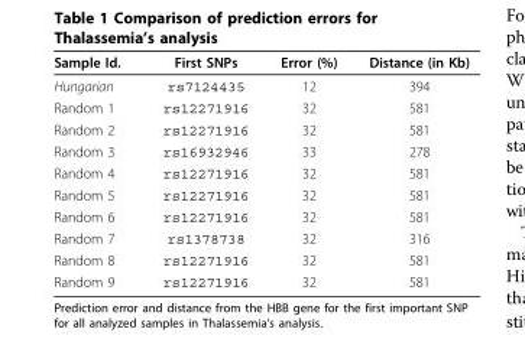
<table><thead><tr><td>Sample Id.</td><td>First SNPs</td><td>Error (%)</td><td>Distance (in Kb)</td></tr></thead><tbody><tr><td>Hungarian</td><td>rs7124435</td><td>12</td><td>394</td></tr><tr><td>Random 1</td><td>rs12271916</td><td>32</td><td>581</td></tr><tr><td>Random 2</td><td>rs12271916</td><td>32</td><td>581</td></tr><tr><td>Random 3</td><td>rs16932946</td><td>33</td><td>278</td></tr><tr><td>Random 4</td><td>rs12271916</td><td>32</td><td>581</td></tr><tr><td>Random 5</td><td>rs12271916</td><td>32</td><td>581</td></tr><tr><td>Random 6</td><td>rs12271916</td><td>32</td><td>581</td></tr><tr><td>Random 7</td><td>rs1378738</td><td>32</td><td>316</td></tr><tr><td>Random 8</td><td>rs12271916</td><td>32</td><td>581</td></tr><tr><td>Random 9</td><td>rs12271916</td><td>32</td><td>581</td></tr></tbody></table>